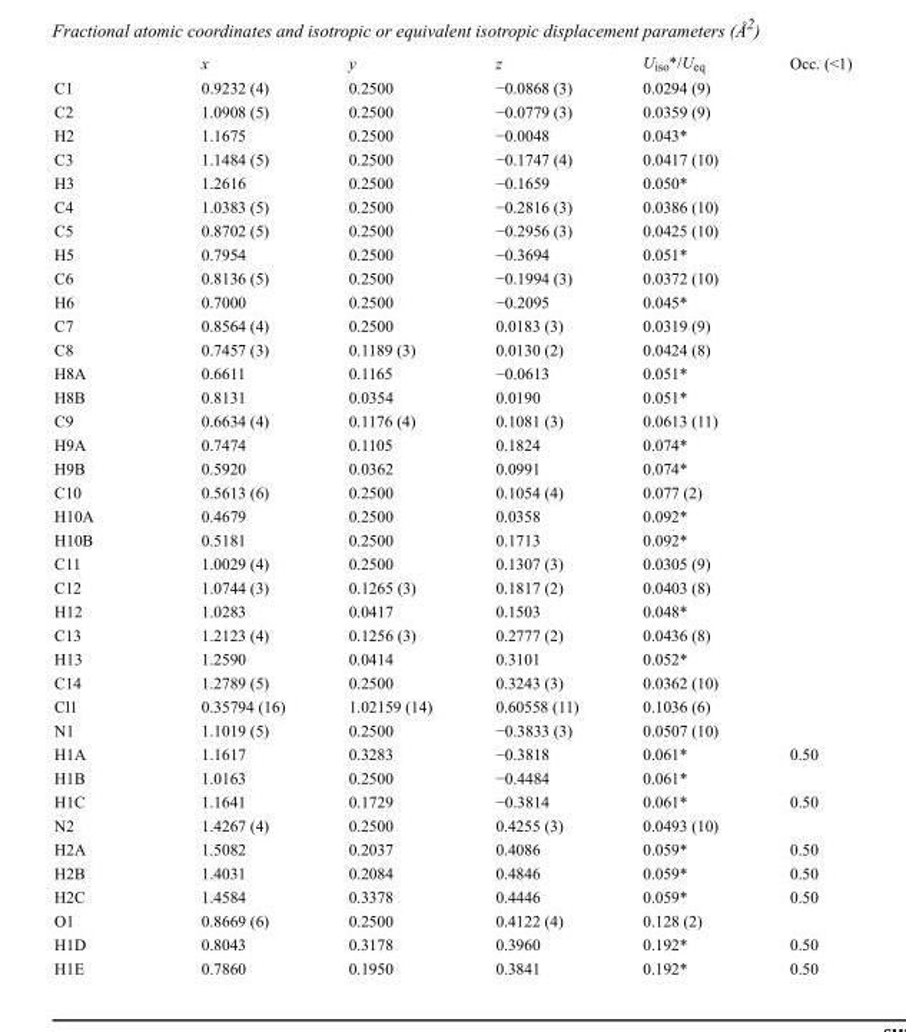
<table><thead><tr><td></td><td>x</td><td>y</td><td>z</td><td>U<sub>iso</sub>*/U<sub>eq</sub></td><td>Occ. (&lt;1)</td></tr></thead><tbody><tr><td>C1</td><td>0.9232 (4)</td><td>0.2500</td><td>−0.0868 (3)</td><td>0.0294 (9)</td><td></td></tr><tr><td>C2</td><td>1.0908 (5)</td><td>0.2500</td><td>−0.0779 (3)</td><td>0.0359 (9)</td><td></td></tr><tr><td>H2</td><td>1.1675</td><td>0.2500</td><td>−0.0048</td><td>0.043*</td><td></td></tr><tr><td>C3</td><td>1.1484 (5)</td><td>0.2500</td><td>−0.1747 (4)</td><td>0.0417 (10)</td><td></td></tr><tr><td>H3</td><td>1.2616</td><td>0.2500</td><td>−0.1659</td><td>0.050*</td><td></td></tr><tr><td>C4</td><td>1.0383 (5)</td><td>0.2500</td><td>−0.2816 (3)</td><td>0.0386 (10)</td><td></td></tr><tr><td>C5</td><td>0.8702 (5)</td><td>0.2500</td><td>−0.2956 (3)</td><td>0.0425 (10)</td><td></td></tr><tr><td>H5</td><td>0.7954</td><td>0.2500</td><td>−0.3694</td><td>0.051*</td><td></td></tr><tr><td>C6</td><td>0.8136 (5)</td><td>0.2500</td><td>−0.1994 (3)</td><td>0.0372 (10)</td><td></td></tr><tr><td>H6</td><td>0.7000</td><td>0.2500</td><td>−0.2095</td><td>0.045*</td><td></td></tr><tr><td>C7</td><td>0.8564 (4)</td><td>0.2500</td><td>0.0183 (3)</td><td>0.0319 (9)</td><td></td></tr><tr><td>C8</td><td>0.7457 (3)</td><td>0.1189 (3)</td><td>0.0130 (2)</td><td>0.0424 (8)</td><td></td></tr><tr><td>H8A</td><td>0.6611</td><td>0.1165</td><td>−0.0613</td><td>0.051*</td><td></td></tr><tr><td>H8B</td><td>0.8131</td><td>0.0354</td><td>0.0190</td><td>0.051*</td><td></td></tr><tr><td>C9</td><td>0.6634 (4)</td><td>0.1176 (4)</td><td>0.1081 (3)</td><td>0.0613 (11)</td><td></td></tr><tr><td>H9A</td><td>0.7474</td><td>0.1105</td><td>0.1824</td><td>0.074*</td><td></td></tr><tr><td>H9B</td><td>0.5920</td><td>0.0362</td><td>0.0991</td><td>0.074*</td><td></td></tr><tr><td>C10</td><td>0.5613 (6)</td><td>0.2500</td><td>0.1054 (4)</td><td>0.077 (2)</td><td></td></tr><tr><td>H10A</td><td>0.4679</td><td>0.2500</td><td>0.0358</td><td>0.092*</td><td></td></tr><tr><td>H10B</td><td>0.5181</td><td>0.2500</td><td>0.1713</td><td>0.092*</td><td></td></tr><tr><td>C11</td><td>1.0029 (4)</td><td>0.2500</td><td>0.1307 (3)</td><td>0.0305 (9)</td><td></td></tr><tr><td>C12</td><td>1.0744 (3)</td><td>0.1265 (3)</td><td>0.1817 (2)</td><td>0.0403 (8)</td><td></td></tr><tr><td>H12</td><td>1.0283</td><td>0.0417</td><td>0.1503</td><td>0.048*</td><td></td></tr><tr><td>C13</td><td>1.2123 (4)</td><td>0.1256 (3)</td><td>0.2777 (2)</td><td>0.0436 (8)</td><td></td></tr><tr><td>H13</td><td>1.2590</td><td>0.0414</td><td>0.3101</td><td>0.052*</td><td></td></tr><tr><td>C14</td><td>1.2789 (5)</td><td>0.2500</td><td>0.3243 (3)</td><td>0.0362 (10)</td><td></td></tr><tr><td>Cl1</td><td>0.35794 (16)</td><td>1.02159 (14)</td><td>0.60558 (11)</td><td>0.1036 (6)</td><td></td></tr><tr><td>N1</td><td>1.1019 (5)</td><td>0.2500</td><td>−0.3833 (3)</td><td>0.0507 (10)</td><td></td></tr><tr><td>H1A</td><td>1.1617</td><td>0.3283</td><td>−0.3818</td><td>0.061*</td><td>0.50</td></tr><tr><td>H1B</td><td>1.0163</td><td>0.2500</td><td>−0.4484</td><td>0.061*</td><td></td></tr><tr><td>H1C</td><td>1.1641</td><td>0.1729</td><td>−0.3814</td><td>0.061*</td><td>0.50</td></tr><tr><td>N2</td><td>1.4267 (4)</td><td>0.2500</td><td>0.4255 (3)</td><td>0.0493 (10)</td><td></td></tr><tr><td>H2A</td><td>1.5082</td><td>0.2037</td><td>0.4086</td><td>0.059*</td><td>0.50</td></tr><tr><td>H2B</td><td>1.4031</td><td>0.2084</td><td>0.4846</td><td>0.059*</td><td>0.50</td></tr><tr><td>H2C</td><td>1.4584</td><td>0.3378</td><td>0.4446</td><td>0.059*</td><td>0.50</td></tr><tr><td>O1</td><td>0.8669 (6)</td><td>0.2500</td><td>0.4122 (4)</td><td>0.128 (2)</td><td></td></tr><tr><td>H1D</td><td>0.8043</td><td>0.3178</td><td>0.3960</td><td>0.192*</td><td>0.50</td></tr><tr><td>H1E</td><td>0.7860</td><td>0.1950</td><td>0.3841</td><td>0.192*</td><td>0.50</td></tr></tbody></table>